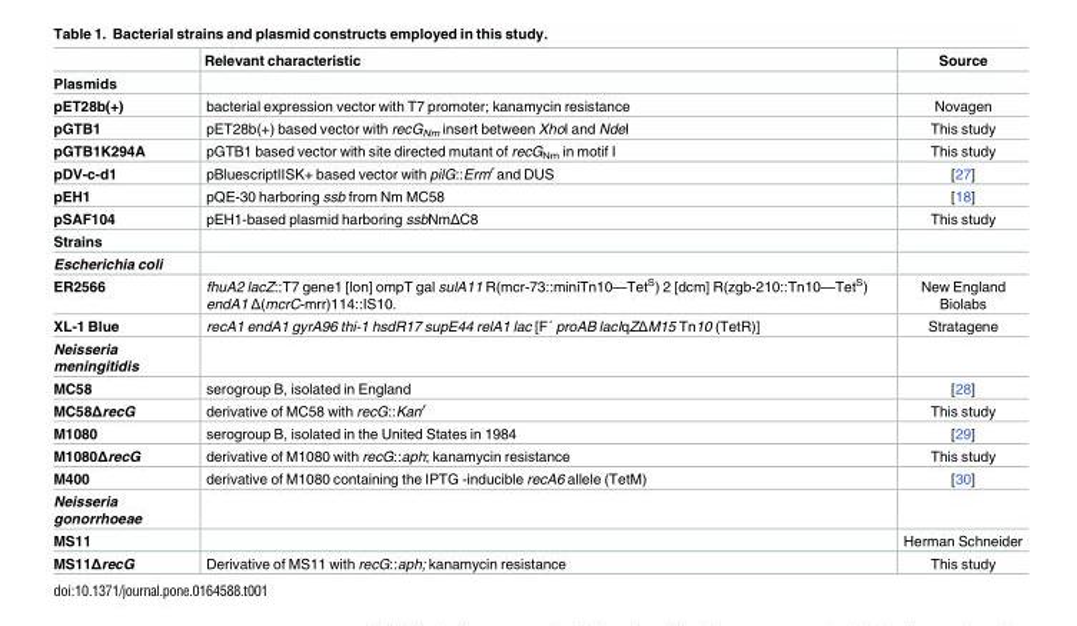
<table><thead><tr><td></td><td>Relevant characteristic</td><td>Source</td></tr></thead><tbody><tr><td colspan="3">Plasmids</td></tr><tr><td>pET28b(+)</td><td>bacterial expression vector with T7 promoter; kanamycin resistance</td><td>Novagen</td></tr><tr><td>pGTB1</td><td>pET28b(+) based vector with recG<sub>Nm</sub> insert between XhoI and NdeI</td><td>This study</td></tr><tr><td>pGTB1K294A</td><td>pGTB1 based vector with site directed mutant of recG<sub>Nm</sub> in motif I</td><td>This study</td></tr><tr><td>pDV-c-d1</td><td>pBluescriptIISK+ based vector with pilG::Erm<sup>r</sup> and DUS</td><td>[27]</td></tr><tr><td>pEH1</td><td>pQE-30 harboring ssb from Nm MC58</td><td>[18]</td></tr><tr><td>pSAF104</td><td>pEH1-based plasmid harboring ssbNmΔC8</td><td>This study</td></tr><tr><td colspan="3">Strains</td></tr><tr><td colspan="3">Escherichia coli</td></tr><tr><td>ER2566</td><td>fhuA2 lacZ::T7 gene1 [lon] ompT gal sulA11 R(mcr-73::miniTn10—Tet<sup>S</sup>) 2 [dcm] R(zgb-210::Tn10—Tet<sup>S</sup>) endA1 Δ(mcrC-mrr)114::IS10.</td><td>New England Biolabs</td></tr><tr><td>XL-1 Blue</td><td>recA1 endA1 gyrA96 thi-1 hsdR17 supE44 relA1 lac [F´ proAB lacIqZΔM15 Tn10 (TetR)]</td><td>Stratagene</td></tr><tr><td colspan="3">Neisseria meningitidis</td></tr><tr><td>MC58</td><td>serogroup B, isolated in England</td><td>[28]</td></tr><tr><td>MC58ΔrecG</td><td>derivative of MC58 with recG::Kan<sup>r</sup></td><td>This study</td></tr><tr><td>M1080</td><td>serogroup B, isolated in the United States in 1984</td><td>[29]</td></tr><tr><td>M1080ΔrecG</td><td>derivative of M1080 with recG::aph; kanamycin resistance</td><td>This study</td></tr><tr><td>M400</td><td>derivative of M1080 containing the IPTG -inducible recA6 allele (TetM)</td><td>[30]</td></tr><tr><td colspan="3">Neisseria gonorrhoeae</td></tr><tr><td>MS11</td><td></td><td>Herman Schneider</td></tr><tr><td>MS11ΔrecG</td><td>Derivative of MS11 with recG::aph; kanamycin resistance</td><td>This study</td></tr></tbody></table>